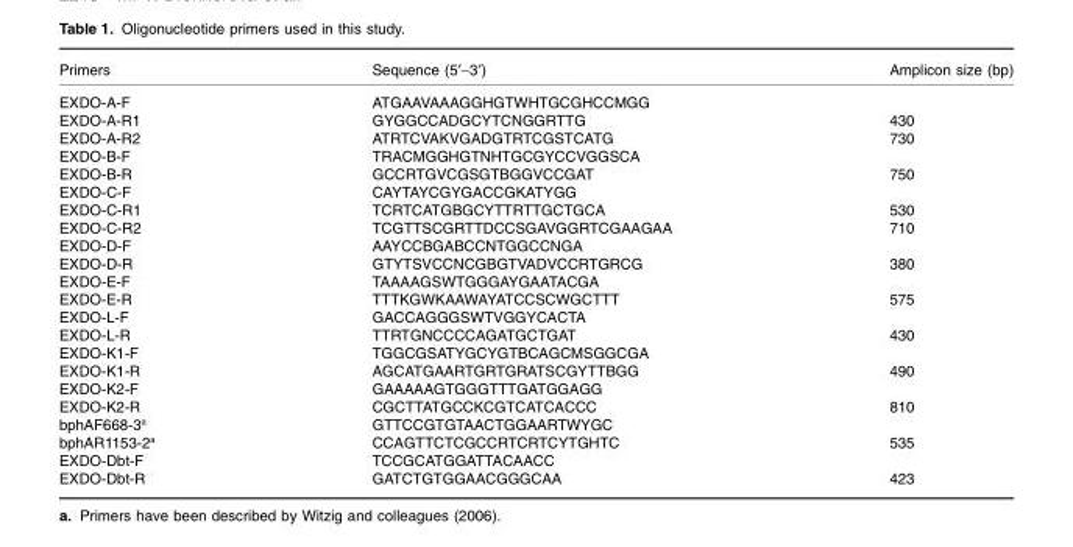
<table><thead><tr><td>Primers</td><td>Sequence (5′-3′)</td><td>Amplicon size (bp)</td></tr></thead><tbody><tr><td>EXDO-A-F</td><td>ATGAAVAAAGGHGTWHTGCGHCCMGG</td><td></td></tr><tr><td>EXDO-A-R1</td><td>GYGGCCADGCYTCNGGRTTG</td><td>430</td></tr><tr><td>EXDO-A-R2</td><td>ATRTCVAKVGADGTRTCGSTCATG</td><td>730</td></tr><tr><td>EXDO-B-F</td><td>TRACMGGHGTNHTGCGYCCVGGSCA</td><td></td></tr><tr><td>EXDO-B-R</td><td>GCCRTGVCGSGTBGGVCCGAT</td><td>750</td></tr><tr><td>EXDO-C-F</td><td>CAYTAYCGYGACCGKATYGG</td><td></td></tr><tr><td>EXDO-C-R1</td><td>TCRTCATGBGCYTTRTTGCTGCA</td><td>530</td></tr><tr><td>EXDO-C-R2</td><td>TCGTTSCGRTTDCCSGAVGGRTCGAAGAA</td><td>710</td></tr><tr><td>EXDO-D-F</td><td>AAYCCBGABCCNTGGCCNGA</td><td></td></tr><tr><td>EXDO-D-R</td><td>GTYTSVCCNCGBGTVADVCCRTGRCG</td><td>380</td></tr><tr><td>EXDO-E-F</td><td>TAAAAGSWTGGGAYGAATACGA</td><td></td></tr><tr><td>EXDO-E-R</td><td>TTTKGWKAAWAYATCCSCWGCTTT</td><td>575</td></tr><tr><td>EXDO-L-F</td><td>GACCAGGGSWTVGGYCACTA</td><td></td></tr><tr><td>EXDO-L-R</td><td>TTRTGNCCCCAGATGCTGAT</td><td>430</td></tr><tr><td>EXDO-K1-F</td><td>TGGCGSATYGCYGTBCAGCMSGGCGA</td><td></td></tr><tr><td>EXDO-K1-R</td><td>AGCATGAARTGRTGRATSCGYTTBGG</td><td>490</td></tr><tr><td>EXDO-K2-F</td><td>GAAAAAGTGGGTTTGATGGAGG</td><td></td></tr><tr><td>EXDO-K2-R</td><td>CGCTTATGCCKCGTCATCACCC</td><td>810</td></tr><tr><td>bphAF668-3<sup>a</sup></td><td>GTTCCGTGTAACTGGAARTWYGC</td><td></td></tr><tr><td>bphAR1153-2<sup>a</sup></td><td>CCAGTTCTCGCCRTCRTCYTGHTC</td><td>535</td></tr><tr><td>EXDO-Dbt-F</td><td>TCCGCATGGATTACAACC</td><td></td></tr><tr><td>EXDO-Dbt-R</td><td>GATCTGTGGAACGGGCAA</td><td>423</td></tr></tbody></table>